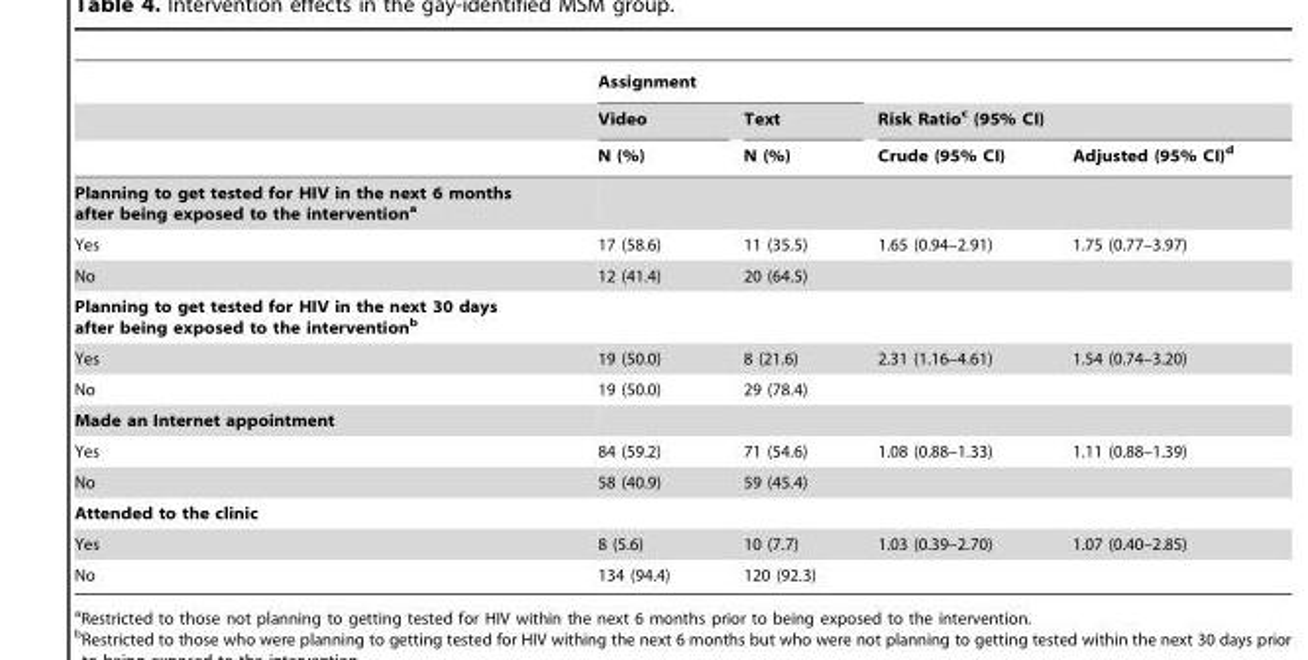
<table><thead><tr><td rowspan="3"></td><td colspan="2">Assignment</td><td></td><td></td></tr><tr><td rowspan="2">Video N (%)</td><td rowspan="2">Text N (%)</td><td colspan="2">Risk Ratio<sup>c</sup> (95% CI)</td></tr><tr><td>Crude (95% CI)</td><td>Adjusted (95% CI)<sup>d</sup></td></tr></thead><tbody><tr><td colspan="5">Planning to get tested for HIV in the next 6 months after being exposed to the interventiona</td></tr><tr><td>Yes</td><td>17 (58.6)</td><td>11 (35.5)</td><td>1.65 (0.94–2.91)</td><td>1.75 (0.77–3.97)</td></tr><tr><td>No</td><td>12 (41.4)</td><td>20 (64.5)</td><td></td><td></td></tr><tr><td colspan="5">Planning to get tested for HIV in the next 30 days after being exposed to the interventionb</td></tr><tr><td>Yes</td><td>19 (50.0)</td><td>8 (21.6)</td><td>2.31 (1.16–4.61)</td><td>1.54 (0.74–3.20)</td></tr><tr><td>No</td><td>19 (50.0)</td><td>29 (78.4)</td><td></td><td></td></tr><tr><td colspan="5">Made an Internet appointment</td></tr><tr><td>Yes</td><td>84 (59.2)</td><td>71 (54.6)</td><td>1.08 (0.88–1.33)</td><td>1.11 (0.88–1.39)</td></tr><tr><td>No</td><td>58 (40.9)</td><td>59 (45.4)</td><td></td><td></td></tr><tr><td colspan="5">Attended to the clinic</td></tr><tr><td>Yes</td><td>8 (5.6)</td><td>10 (7.7)</td><td>1.03 (0.39–2.70)</td><td>1.07 (0.40–2.85)</td></tr><tr><td>No</td><td>134 (94.4)</td><td>120 (92.3)</td><td></td><td></td></tr></tbody></table>